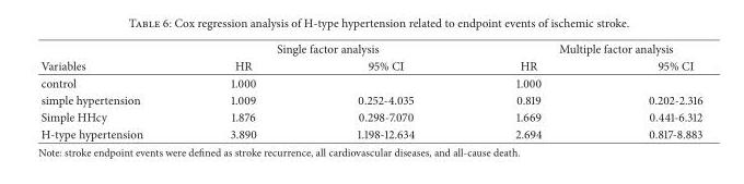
<table><thead><tr><td rowspan="2">Variables</td><td colspan="2">Single factor analysis</td><td colspan="2">Multiple factor analysis</td></tr><tr><td>HR</td><td>95% CI</td><td>HR</td><td>95% CI</td></tr></thead><tbody><tr><td>control</td><td>1.000</td><td></td><td>1.000</td><td></td></tr><tr><td>simple hypertension</td><td>1.009</td><td>0.252-4.035</td><td>0.819</td><td>0.202-2.316</td></tr><tr><td>Simple HHcy</td><td>1.876</td><td>0.298-7.070</td><td>1.669</td><td>0.441-6.312</td></tr><tr><td>H-type hypertension</td><td>3.890</td><td>1.198-12.634</td><td>2.694</td><td>0.817-8.883</td></tr></tbody></table>